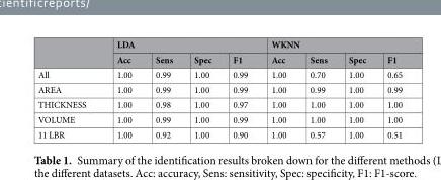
<table><thead><tr><td rowspan="2"></td><td colspan="4">LDA</td><td colspan="4">WKNN</td></tr><tr><td>Acc</td><td>Sens</td><td>Spec</td><td>F1</td><td>Acc</td><td>Sens</td><td>Spec</td><td>F1</td></tr></thead><tbody><tr><td>All</td><td>1.00</td><td>0.99</td><td>1.00</td><td>0.99</td><td>1.00</td><td>0.70</td><td>1.00</td><td>0.65</td></tr><tr><td>AREA</td><td>1.00</td><td>0.99</td><td>1.00</td><td>0.99</td><td>1.00</td><td>0.99</td><td>1.00</td><td>0.99</td></tr><tr><td>THICKNESS</td><td>1.00</td><td>0.98</td><td>1.00</td><td>0.97</td><td>1.00</td><td>1.00</td><td>1.00</td><td>1.00</td></tr><tr><td>VOLUME</td><td>1.00</td><td>0.99</td><td>1.00</td><td>0.99</td><td>1.00</td><td>1.00</td><td>1.00</td><td>1.00</td></tr><tr><td>11 LBR</td><td>1.00</td><td>0.92</td><td>1.00</td><td>0.90</td><td>1.00</td><td>0.57</td><td>1.00</td><td>0.51</td></tr></tbody></table>